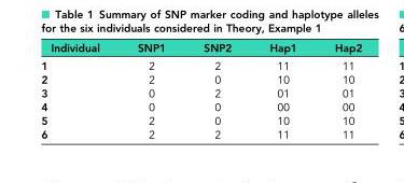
<table><thead><tr><td>Individual</td><td>SNP1</td><td>SNP2</td><td>Hap1</td><td>Hap2</td></tr></thead><tbody><tr><td>1</td><td>2</td><td>2</td><td>11</td><td>11</td></tr><tr><td>2</td><td>2</td><td>0</td><td>10</td><td>10</td></tr><tr><td>3</td><td>0</td><td>2</td><td>01</td><td>01</td></tr><tr><td>4</td><td>0</td><td>0</td><td>00</td><td>00</td></tr><tr><td>5</td><td>2</td><td>0</td><td>10</td><td>10</td></tr><tr><td>6</td><td>2</td><td>2</td><td>11</td><td>11</td></tr></tbody></table>